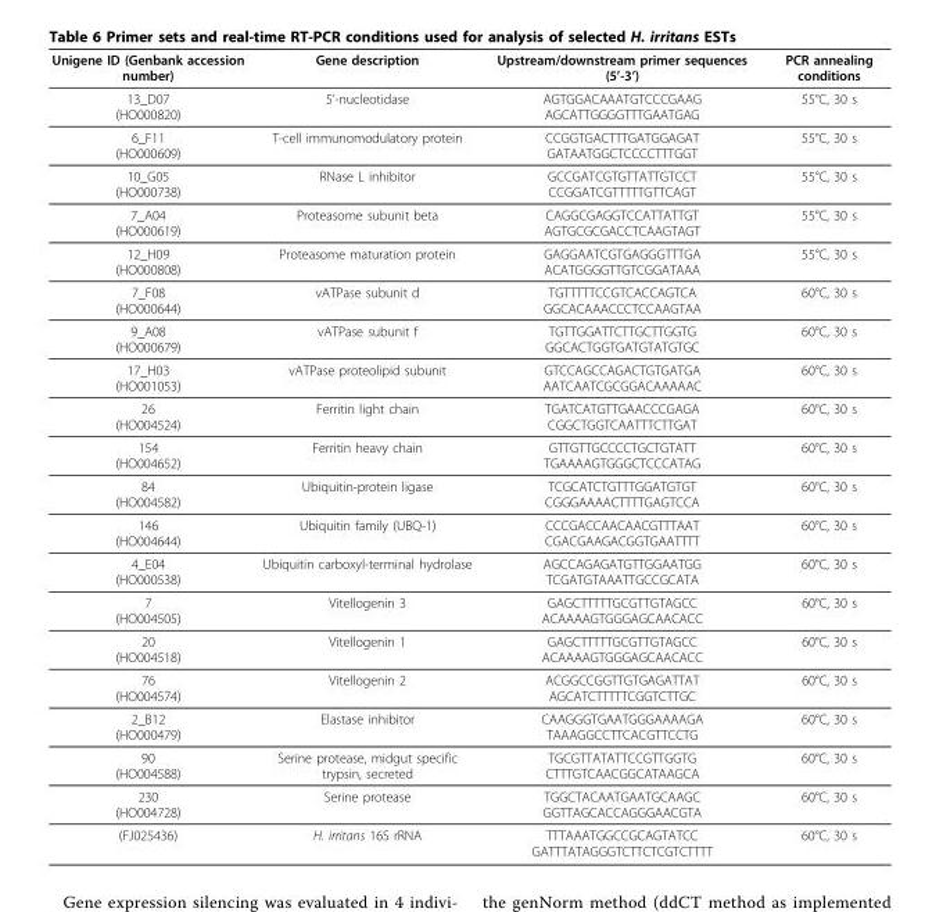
<table><thead><tr><td>Unigene ID (Genbank accession number)</td><td>Gene description</td><td>Upstream/downstream primer sequences (5’-3’)</td><td>PCR annealing conditions</td></tr></thead><tbody><tr><td>13_D07 (HO000820)</td><td>5’-nucleotidase</td><td>AGTGGACAAATGTCCCGAAG AGCATTGGGGTTTGAATGAG</td><td>55°C, 30 s</td></tr><tr><td>6_F11 (HO000609)</td><td>T-cell immunomodulatory protein</td><td>CCGGTGACTTTGATGGAGAT GATAATGGCTCCCCTTTGGT</td><td>55°C, 30 s</td></tr><tr><td>10_G05 (HO000738)</td><td>RNase L inhibitor</td><td>GCCGATCGTGTTATTGTCCT CCGGATCGTTTTTGTTCAGT</td><td>55°C, 30 s</td></tr><tr><td>7_A04 (HO000619)</td><td>Proteasome subunit beta</td><td>CAGGCGAGGTCCATTATTGT AGTGCGCGACCTCAAGTAGT</td><td>55°C, 30 s</td></tr><tr><td>12_H09 (HO000808)</td><td>Proteasome maturation protein</td><td>GAGGAATCGTGAGGGTTTGA ACATGGGGTTGTCGGATAAA</td><td>55°C, 30 s</td></tr><tr><td>7_F08 (HO000644)</td><td>vATPase subunit d</td><td>TGTTTTTCCGTCACCAGTCA GGCACAAACCCTCCAAGTAA</td><td>60°C, 30 s</td></tr><tr><td>9_A08 (HO000679)</td><td>vATPase subunit f</td><td>TGTTGGATTCTTGCTTGGTG GGCACTGGTGATGTATGTGC</td><td>60°C, 30 s</td></tr><tr><td>17_H03 (HO001053)</td><td>vATPase proteolipid subunit</td><td>GTCCAGCCAGACTGTGATGA AATCAATCGCGGACAAAAAC</td><td>60°C, 30 s</td></tr><tr><td>26 (HO004524)</td><td>Ferritin light chain</td><td>TGATCATGTTGAACCCGAGA CGGCTGGTCAATTTCTTGAT</td><td>60°C, 30 s</td></tr><tr><td>154 (HO004652)</td><td>Ferritin heavy chain</td><td>GTTGTTGCCCCTGCTGTATT TGAAAAGTGGGCTCCCATAG</td><td>60°C, 30 s</td></tr><tr><td>84 (HO004582)</td><td>Ubiquitin-protein ligase</td><td>TCGCATCTGTTTGGATGTGT CGGGAAAACTTTTGAGTCCA</td><td>60°C, 30 s</td></tr><tr><td>146 (HO004644)</td><td>Ubiquitin family (UBQ-1)</td><td>CCCGACCAACAACGTTTAAT CGACGAAGACGGTGAATTTT</td><td>60°C, 30 s</td></tr><tr><td>4_E04 (HO000538)</td><td>Ubiquitin carboxyl-terminal hydrolase</td><td>AGCCAGAGATGTTGGAATGG TCGATGTAAATTGCCGCATA</td><td>60°C, 30 s</td></tr><tr><td>7 (HO004505)</td><td>Vitellogenin 3</td><td>GAGCTTTTTGCGTTGTAGCC ACAAAAGTGGGAGCAACACC</td><td>60°C, 30 s</td></tr><tr><td>20 (HO004518)</td><td>Vitellogenin 1</td><td>GAGCTTTTTGCGTTGTAGCC ACAAAAGTGGGAGCAACACC</td><td>60°C, 30 s</td></tr><tr><td>76 (HO004574)</td><td>Vitellogenin 2</td><td>ACGGCCGGTTGTGAGATTAT AGCATCTTTTTCGGTCTTGC</td><td>60°C, 30 s</td></tr><tr><td>2_B12 (HO000479)</td><td>Elastase inhibitor</td><td>CAAGGGTGAATGGGAAAAGA TAAAGGCCTTCACGTTCCTG</td><td>60°C, 30 s</td></tr><tr><td>90 (HO004588)</td><td>Serine protease, midgut specific trypsin, secreted</td><td>TGCGTTATATTCCGTTGGTG CTTTGTCAACGGCATAAGCA</td><td>60°C, 30 s</td></tr><tr><td>230 (HO004728)</td><td>Serine protease</td><td>TGGCTACAATGAATGCAAGC GGTTAGCACCAGGGAACGTA</td><td>60°C, 30 s</td></tr><tr><td>(FJ025436)</td><td>H. irritans 16S rRNA</td><td>TTTAAATGGCCGCAGTATCC GATTTATAGGGTCTTCTCGTCTTTT</td><td>60°C, 30 s</td></tr></tbody></table>